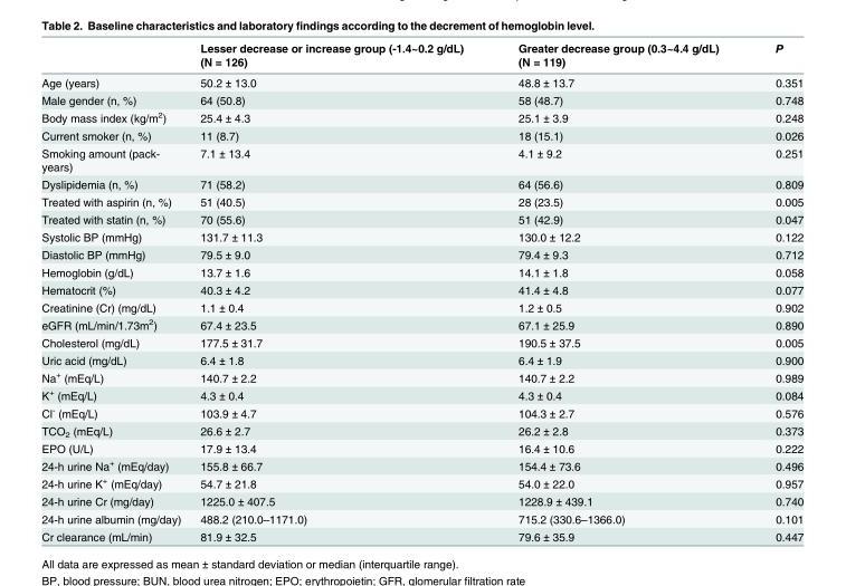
<table><thead><tr><td></td><td>Lesser decrease or increase group (-1.4~0.2 g/dL) (N = 126)</td><td>Greater decrease group (0.3~4.4 g/dL) (N = 119)</td><td>P</td></tr></thead><tbody><tr><td>Age (years)</td><td>50.2 ± 13.0</td><td>48.8 ± 13.7</td><td>0.351</td></tr><tr><td>Male gender (n, %)</td><td>64 (50.8)</td><td>58 (48.7)</td><td>0.748</td></tr><tr><td>Body mass index (kg/m<sup>2</sup>)</td><td>25.4 ± 4.3</td><td>25.1 ± 3.9</td><td>0.248</td></tr><tr><td>Current smoker (n, %)</td><td>11 (8.7)</td><td>18 (15.1)</td><td>0.026</td></tr><tr><td>Smoking amount (pack- years)</td><td>7.1 ± 13.4</td><td>4.1 ± 9.2</td><td>0.251</td></tr><tr><td>Dyslipidemia (n, %)</td><td>71 (58.2)</td><td>64 (56.6)</td><td>0.809</td></tr><tr><td>Treated with aspirin (n, %)</td><td>51 (40.5)</td><td>28 (23.5)</td><td>0.005</td></tr><tr><td>Treated with statin (n, %)</td><td>70 (55.6)</td><td>51 (42.9)</td><td>0.047</td></tr><tr><td>Systolic BP (mmHg)</td><td>131.7 ± 11.3</td><td>130.0 ± 12.2</td><td>0.122</td></tr><tr><td>Diastolic BP (mmHg)</td><td>79.5 ± 9.0</td><td>79.4 ± 9.3</td><td>0.712</td></tr><tr><td>Hemoglobin (g/dL)</td><td>13.7 ± 1.6</td><td>14.1 ± 1.8</td><td>0.058</td></tr><tr><td>Hematocrit (%)</td><td>40.3 ± 4.2</td><td>41.4 ± 4.8</td><td>0.077</td></tr><tr><td>Creatinine (Cr) (mg/dL)</td><td>1.1 ± 0.4</td><td>1.2 ± 0.5</td><td>0.902</td></tr><tr><td>eGFR (mL/min/1.73m<sup>2</sup>)</td><td>67.4 ± 23.5</td><td>67.1 ± 25.9</td><td>0.890</td></tr><tr><td>Cholesterol (mg/dL)</td><td>177.5 ± 31.7</td><td>190.5 ± 37.5</td><td>0.005</td></tr><tr><td>Uric acid (mg/dL)</td><td>6.4 ± 1.8</td><td>6.4 ± 1.9</td><td>0.900</td></tr><tr><td>Na<sup>+</sup> (mEq/L)</td><td>140.7 ± 2.2</td><td>140.7 ± 2.2</td><td>0.989</td></tr><tr><td>K<sup>+</sup> (mEq/L)</td><td>4.3 ± 0.4</td><td>4.3 ± 0.4</td><td>0.084</td></tr><tr><td>Cl<sup>-</sup> (mEq/L)</td><td>103.9 ± 4.7</td><td>104.3 ± 2.7</td><td>0.576</td></tr><tr><td>TCO<sub>2</sub> (mEq/L)</td><td>26.6 ± 2.7</td><td>26.2 ± 2.8</td><td>0.373</td></tr><tr><td>EPO (U/L)</td><td>17.9 ± 13.4</td><td>16.4 ± 10.6</td><td>0.222</td></tr><tr><td>24-h urine Na<sup>+</sup> (mEq/day)</td><td>155.8 ± 66.7</td><td>154.4 ± 73.6</td><td>0.496</td></tr><tr><td>24-h urine K<sup>+</sup> (mEq/day)</td><td>54.7 ± 21.8</td><td>54.0 ± 22.0</td><td>0.957</td></tr><tr><td>24-h urine Cr (mg/day)</td><td>1225.0 ± 407.5</td><td>1228.9 ± 439.1</td><td>0.740</td></tr><tr><td>24-h urine albumin (mg/day)</td><td>488.2 (210.0–1171.0)</td><td>715.2 (330.6–1366.0)</td><td>0.101</td></tr><tr><td>Cr clearance (mL/min)</td><td>81.9 ± 32.5</td><td>79.6 ± 35.9</td><td>0.447</td></tr></tbody></table>